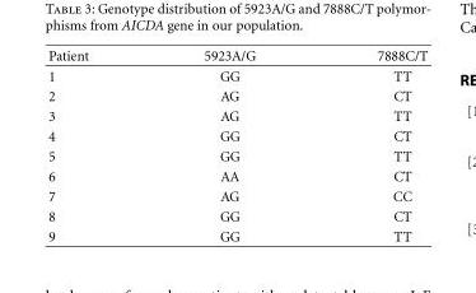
<table><thead><tr><td>Patient</td><td>5923A/G</td><td>7888C/T</td></tr></thead><tbody><tr><td>1</td><td>GG</td><td>TT</td></tr><tr><td>2</td><td>AG</td><td>CT</td></tr><tr><td>3</td><td>AG</td><td>TT</td></tr><tr><td>4</td><td>GG</td><td>CT</td></tr><tr><td>5</td><td>GG</td><td>TT</td></tr><tr><td>6</td><td>AA</td><td>CT</td></tr><tr><td>7</td><td>AG</td><td>CC</td></tr><tr><td>8</td><td>GG</td><td>CT</td></tr><tr><td>9</td><td>GG</td><td>TT</td></tr></tbody></table>